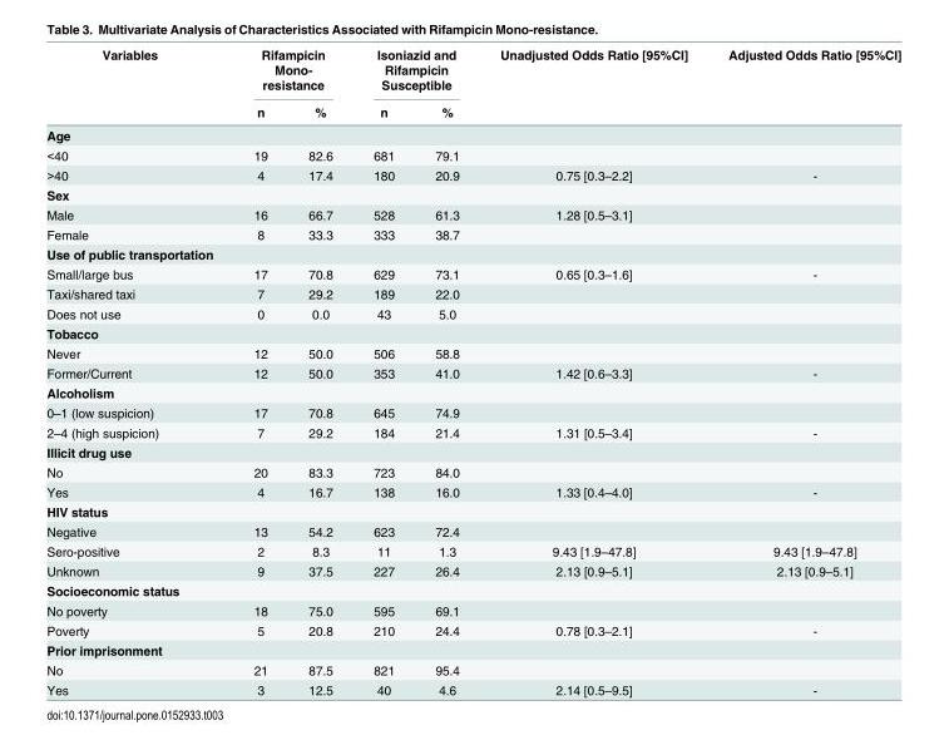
<table><thead><tr><td rowspan="2">Variables</td><td colspan="2">Rifampicin Mono- resistance</td><td colspan="2">Isoniazid and Rifampicin Susceptible</td><td rowspan="2">Unadjusted Odds Ratio [95%CI]</td><td rowspan="2">Adjusted Odds Ratio [95%CI]</td></tr><tr><td>n</td><td>%</td><td>n</td><td>%</td></tr></thead><tbody><tr><td colspan="7">Age</td></tr><tr><td>&lt;40</td><td>19</td><td>82.6</td><td>681</td><td>79.1</td><td></td><td></td></tr><tr><td>&gt;40</td><td>4</td><td>17.4</td><td>180</td><td>20.9</td><td>0.75 [0.3–2.2]</td><td>-</td></tr><tr><td colspan="7">Sex</td></tr><tr><td>Male</td><td>16</td><td>66.7</td><td>528</td><td>61.3</td><td>1.28 [0.5–3.1]</td><td></td></tr><tr><td>Female</td><td>8</td><td>33.3</td><td>333</td><td>38.7</td><td></td><td></td></tr><tr><td colspan="7">Use of public transportation</td></tr><tr><td>Small/large bus</td><td>17</td><td>70.8</td><td>629</td><td>73.1</td><td>0.65 [0.3–1.6]</td><td>-</td></tr><tr><td>Taxi/shared taxi</td><td>7</td><td>29.2</td><td>189</td><td>22.0</td><td></td><td></td></tr><tr><td>Does not use</td><td>0</td><td>0.0</td><td>43</td><td>5.0</td><td></td><td></td></tr><tr><td colspan="7">Tobacco</td></tr><tr><td>Never</td><td>12</td><td>50.0</td><td>506</td><td>58.8</td><td></td><td></td></tr><tr><td>Former/Current</td><td>12</td><td>50.0</td><td>353</td><td>41.0</td><td>1.42 [0.6–3.3]</td><td>-</td></tr><tr><td colspan="7">Alcoholism</td></tr><tr><td>0–1 (low suspicion)</td><td>17</td><td>70.8</td><td>645</td><td>74.9</td><td></td><td></td></tr><tr><td>2–4 (high suspicion)</td><td>7</td><td>29.2</td><td>184</td><td>21.4</td><td>1.31 [0.5–3.4]</td><td>-</td></tr><tr><td colspan="7">Illicit drug use</td></tr><tr><td>No</td><td>20</td><td>83.3</td><td>723</td><td>84.0</td><td></td><td></td></tr><tr><td>Yes</td><td>4</td><td>16.7</td><td>138</td><td>16.0</td><td>1.33 [0.4–4.0]</td><td>-</td></tr><tr><td colspan="7">HIV status</td></tr><tr><td>Negative</td><td>13</td><td>54.2</td><td>623</td><td>72.4</td><td></td><td></td></tr><tr><td>Sero-positive</td><td>2</td><td>8.3</td><td>11</td><td>1.3</td><td>9.43 [1.9–47.8]</td><td>9.43 [1.9–47.8]</td></tr><tr><td>Unknown</td><td>9</td><td>37.5</td><td>227</td><td>26.4</td><td>2.13 [0.9–5.1]</td><td>2.13 [0.9–5.1]</td></tr><tr><td colspan="7">Socioeconomic status</td></tr><tr><td>No poverty</td><td>18</td><td>75.0</td><td>595</td><td>69.1</td><td></td><td></td></tr><tr><td>Poverty</td><td>5</td><td>20.8</td><td>210</td><td>24.4</td><td>0.78 [0.3–2.1]</td><td>-</td></tr><tr><td colspan="7">Prior imprisonment</td></tr><tr><td>No</td><td>21</td><td>87.5</td><td>821</td><td>95.4</td><td></td><td></td></tr><tr><td>Yes</td><td>3</td><td>12.5</td><td>40</td><td>4.6</td><td>2.14 [0.5–9.5]</td><td>-</td></tr></tbody></table>